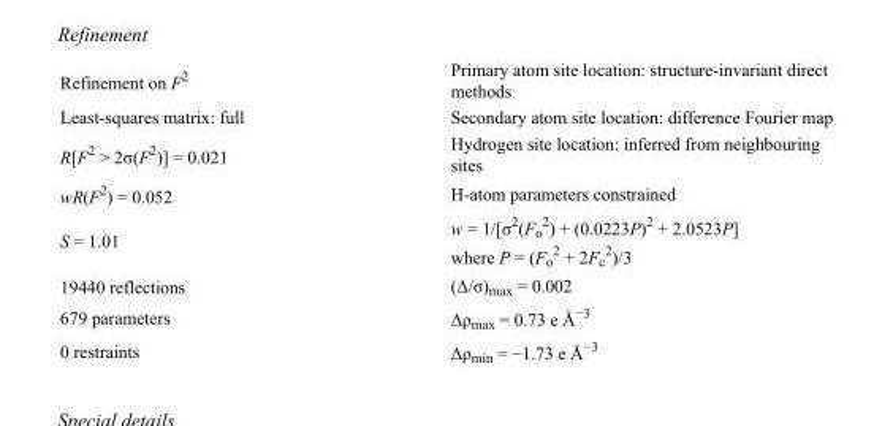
<table><tbody><tr><td>Refinement on F<sup>2</sup></td><td>Primary atom site location: structure-invariant direct methods</td></tr><tr><td>Least-squares matrix: full</td><td>Secondary atom site location: difference Fourier map</td></tr><tr><td>R[F<sup>2</sup> &gt; 2σ(F<sup>2</sup>)] = 0.021</td><td>Hydrogen site location: inferred from neighbouring sites</td></tr><tr><td>wR(F<sup>2</sup>) = 0.052</td><td>H-atom parameters constrained</td></tr><tr><td>S = 1.01</td><td>w = 1/[σ<sup>2</sup>(F<sub>o</sub> <sup>2</sup>) + (0.0223P)<sup>2</sup> + 2.0523P] where P = (F<sub>o</sub> <sup>2</sup> + 2F<sub>c</sub> <sup>2</sup>)/3</td></tr><tr><td>19440 reflections</td><td>(Δ/σ)<sub>max</sub> = 0.002</td></tr><tr><td>679 parameters</td><td>Δρ<sub>max</sub> = 0.73 e Å<sup>−3</sup></td></tr><tr><td>0 restraints</td><td>Δρ<sub>min</sub> = −1.73 e Å<sup>−3</sup></td></tr></tbody></table>